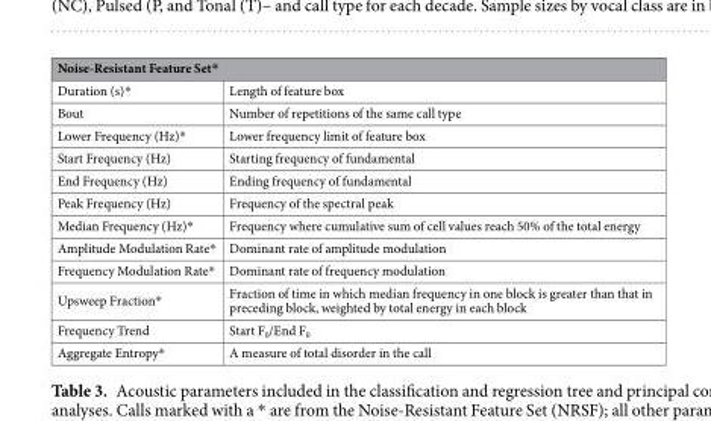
<table><thead><tr><td colspan="2">Noise-Resistant Feature Set*</td></tr><tr><td>Duration (s)*</td><td>Length of feature box</td></tr></thead><tbody><tr><td>Bout</td><td>Number of repetitions of the same call type</td></tr><tr><td>Lower Frequency (Hz)*</td><td>Lower frequency limit of feature box</td></tr><tr><td>Start Frequency (Hz)</td><td>Starting frequency of fundamental</td></tr><tr><td>End Frequency (Hz)</td><td>Ending frequency of fundamental</td></tr><tr><td>Peak Frequency (Hz)</td><td>Frequency of the spectral peak</td></tr><tr><td>Median Frequency (Hz)*</td><td>Frequency where cumulative sum of cell values reach 50% of the total energy</td></tr><tr><td>Amplitude Modulation Rate*</td><td>Dominant rate of amplitude modulation</td></tr><tr><td>Frequency Modulation Rate*</td><td>Dominant rate of frequency modulation</td></tr><tr><td>Upsweep Fraction*</td><td>Fraction of time in which median frequency in one block is greater than that in preceding block, weighted by total energy in each block</td></tr><tr><td>Frequency Trend</td><td>Start F<sub>0</sub>/End F<sub>0</sub></td></tr><tr><td>Aggregate Entropy*</td><td>A measure of total disorder in the call</td></tr></tbody></table>